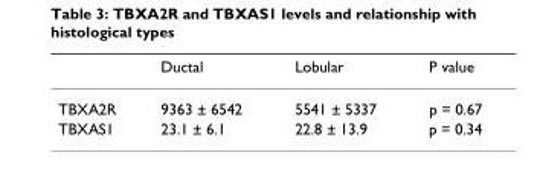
<table><thead><tr><td></td><td>Ductal</td><td>Lobular</td><td>P value</td></tr></thead><tbody><tr><td>TBXA2R</td><td>9363 ± 6542</td><td>5541 ± 5337</td><td>p = 0.67</td></tr><tr><td>TBXAS1</td><td>23.1 ± 6.1</td><td>22.8 ± 13.9</td><td>p = 0.34</td></tr></tbody></table>